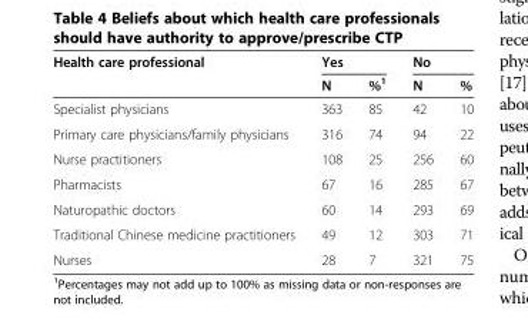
<table><thead><tr><td rowspan="2">Health care professional</td><td colspan="2">Yes</td><td colspan="2">No</td></tr><tr><td>N</td><td>%<sup>1</sup></td><td>N</td><td>%</td></tr></thead><tbody><tr><td>Specialist physicians</td><td>363</td><td>85</td><td>42</td><td>10</td></tr><tr><td>Primary care physicians/family physicians</td><td>316</td><td>74</td><td>94</td><td>22</td></tr><tr><td>Nurse practitioners</td><td>108</td><td>25</td><td>256</td><td>60</td></tr><tr><td>Pharmacists</td><td>67</td><td>16</td><td>285</td><td>67</td></tr><tr><td>Naturopathic doctors</td><td>60</td><td>14</td><td>293</td><td>69</td></tr><tr><td>Traditional Chinese medicine practitioners</td><td>49</td><td>12</td><td>303</td><td>71</td></tr><tr><td>Nurses</td><td>28</td><td>7</td><td>321</td><td>75</td></tr></tbody></table>